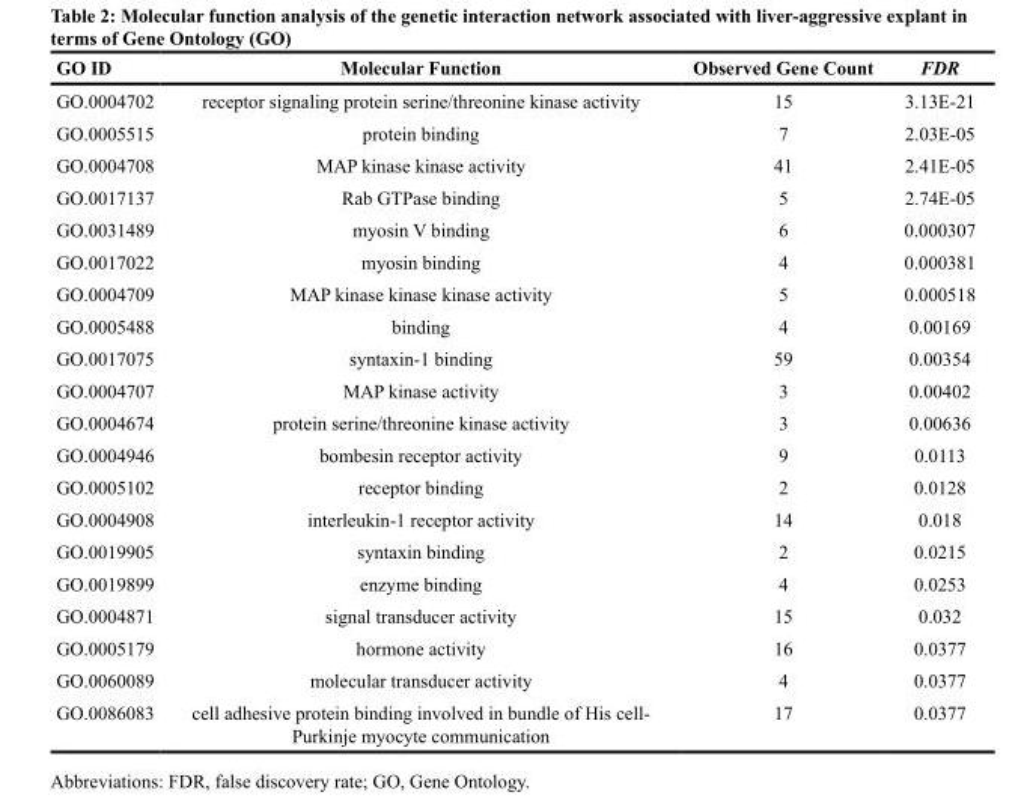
<table><thead><tr><td>GO ID</td><td>Molecular Function</td><td>Observed Gene Count</td><td>FDR</td></tr></thead><tbody><tr><td>GO.0004702</td><td>receptor signaling protein serine/threonine kinase activity</td><td>15</td><td>3.13E-21</td></tr><tr><td>GO.0005515</td><td>protein binding</td><td>7</td><td>2.03E-05</td></tr><tr><td>GO.0004708</td><td>MAP kinase kinase activity</td><td>41</td><td>2.41E-05</td></tr><tr><td>GO.0017137</td><td>Rab GTPase binding</td><td>5</td><td>2.74E-05</td></tr><tr><td>GO.0031489</td><td>myosin V binding</td><td>6</td><td>0.000307</td></tr><tr><td>GO.0017022</td><td>myosin binding</td><td>4</td><td>0.000381</td></tr><tr><td>GO.0004709</td><td>MAP kinase kinase kinase activity</td><td>5</td><td>0.000518</td></tr><tr><td>GO.0005488</td><td>binding</td><td>4</td><td>0.00169</td></tr><tr><td>GO.0017075</td><td>syntaxin-1 binding</td><td>59</td><td>0.00354</td></tr><tr><td>GO.0004707</td><td>MAP kinase activity</td><td>3</td><td>0.00402</td></tr><tr><td>GO.0004674</td><td>protein serine/threonine kinase activity</td><td>3</td><td>0.00636</td></tr><tr><td>GO.0004946</td><td>bombesin receptor activity</td><td>9</td><td>0.0113</td></tr><tr><td>GO.0005102</td><td>receptor binding</td><td>2</td><td>0.0128</td></tr><tr><td>GO.0004908</td><td>interleukin-1 receptor activity</td><td>14</td><td>0.018</td></tr><tr><td>GO.0019905</td><td>syntaxin binding</td><td>2</td><td>0.0215</td></tr><tr><td>GO.0019899</td><td>enzyme binding</td><td>4</td><td>0.0253</td></tr><tr><td>GO.0004871</td><td>signal transducer activity</td><td>15</td><td>0.032</td></tr><tr><td>GO.0005179</td><td>hormone activity</td><td>16</td><td>0.0377</td></tr><tr><td>GO.0060089</td><td>molecular transducer activity</td><td>4</td><td>0.0377</td></tr><tr><td>GO.0086083</td><td>cell adhesive protein binding involved in bundle of His cell- Purkinje myocyte communication</td><td>17</td><td>0.0377</td></tr></tbody></table>